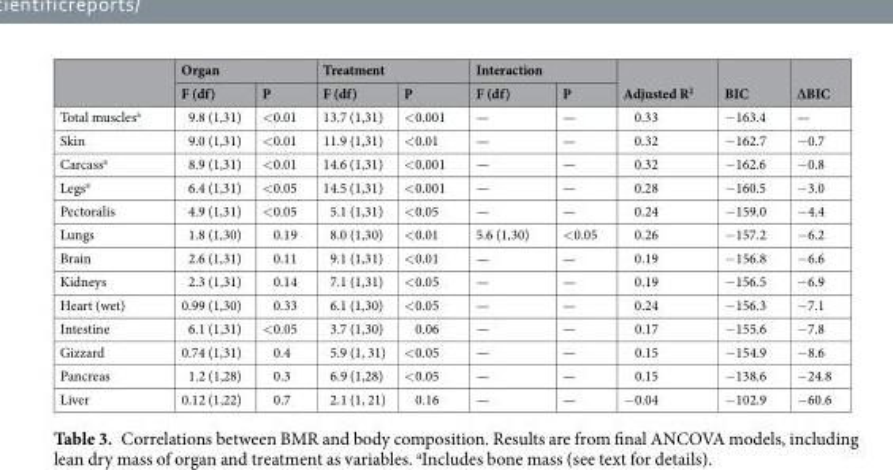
<table><thead><tr><td rowspan="2"></td><td colspan="2">Organ</td><td colspan="2">Treatment</td><td colspan="2">Interaction</td><td rowspan="2">Adjusted R<sup>2</sup></td><td rowspan="2">BIC</td><td rowspan="2">∆BIC</td></tr><tr><td>F (df)</td><td>P</td><td>F (df)</td><td>P</td><td>F (df)</td><td>P</td></tr></thead><tbody><tr><td>Total muscles<sup>a</sup></td><td>9.8 (1,31)</td><td>&lt;0.01</td><td>13.7 (1,31)</td><td>&lt;0.001</td><td>—</td><td>—</td><td>0.33</td><td>−163.4</td><td>—</td></tr><tr><td>Skin</td><td>9.0 (1,31)</td><td>&lt;0.01</td><td>11.9 (1,31)</td><td>&lt;0.01</td><td>—</td><td>—</td><td>0.32</td><td>−162.7</td><td>−0.7</td></tr><tr><td>Carcass<sup>a</sup></td><td>8.9 (1,31)</td><td>&lt;0.01</td><td>14.6 (1,31)</td><td>&lt;0.001</td><td>—</td><td>—</td><td>0.32</td><td>−162.6</td><td>−0.8</td></tr><tr><td>Legs<sup>a</sup></td><td>6.4 (1,31)</td><td>&lt;0.05</td><td>14.5 (1,31)</td><td>&lt;0.001</td><td>—</td><td>—</td><td>0.28</td><td>−160.5</td><td>−3.0</td></tr><tr><td>Pectoralis</td><td>4.9 (1,31)</td><td>&lt;0.05</td><td>5.1 (1,31)</td><td>&lt;0.05</td><td>—</td><td>—</td><td>0.24</td><td>−159.0</td><td>−4.4</td></tr><tr><td>Lungs</td><td>1.8 (1,30)</td><td>0.19</td><td>8.0 (1,30)</td><td>&lt;0.01</td><td>5.6 (1,30)</td><td>&lt;0.05</td><td>0.26</td><td>−157.2</td><td>−6.2</td></tr><tr><td>Brain</td><td>2.6 (1,31)</td><td>0.11</td><td>9.1 (1,31)</td><td>&lt;0.01</td><td>—</td><td>—</td><td>0.19</td><td>−156.8</td><td>−6.6</td></tr><tr><td>Kidneys</td><td>2.3 (1,31)</td><td>0.14</td><td>7.1 (1,31)</td><td>&lt;0.05</td><td>—</td><td>—</td><td>0.19</td><td>−156.5</td><td>−6.9</td></tr><tr><td>Heart (wet)</td><td>0.99 (1,30)</td><td>0.33</td><td>6.1 (1,30)</td><td>&lt;0.05</td><td>—</td><td>—</td><td>0.24</td><td>−156.3</td><td>−7.1</td></tr><tr><td>Intestine</td><td>6.1 (1,31)</td><td>&lt;0.05</td><td>3.7 (1,30)</td><td>0.06</td><td>—</td><td>—</td><td>0.17</td><td>−155.6</td><td>−7.8</td></tr><tr><td>Gizzard</td><td>0.74 (1,31)</td><td>0.4</td><td>5.9 (1, 31)</td><td>&lt;0.05</td><td>—</td><td>—</td><td>0.15</td><td>−154.9</td><td>−8.6</td></tr><tr><td>Pancreas</td><td>1.2 (1,28)</td><td>0.3</td><td>6.9 (1,28)</td><td>&lt;0.05</td><td>—</td><td>—</td><td>0.15</td><td>−138.6</td><td>−24.8</td></tr><tr><td>Liver</td><td>0.12 (1,22)</td><td>0.7</td><td>2.1 (1, 21)</td><td>0.16</td><td>—</td><td>—</td><td>−0.04</td><td>−102.9</td><td>−60.6</td></tr></tbody></table>